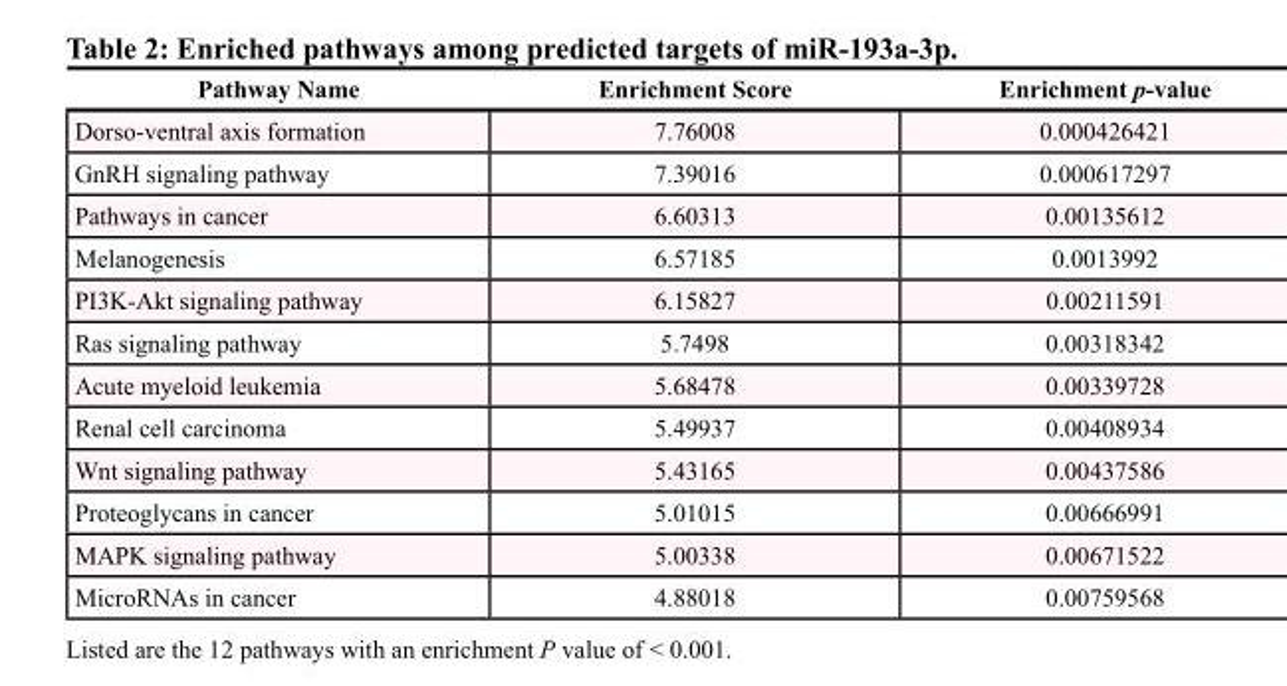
<table><thead><tr><td>Pathway Name</td><td>Enrichment Score</td><td>Enrichment p-value</td></tr></thead><tbody><tr><td>Dorso-ventral axis formation</td><td>7.76008</td><td>0.000426421</td></tr><tr><td>GnRH signaling pathway</td><td>7.39016</td><td>0.000617297</td></tr><tr><td>Pathways in cancer</td><td>6.60313</td><td>0.00135612</td></tr><tr><td>Melanogenesis</td><td>6.57185</td><td>0.0013992</td></tr><tr><td>PI3K-Akt signaling pathway</td><td>6.15827</td><td>0.00211591</td></tr><tr><td>Ras signaling pathway</td><td>5.7498</td><td>0.00318342</td></tr><tr><td>Acute myeloid leukemia</td><td>5.68478</td><td>0.00339728</td></tr><tr><td>Renal cell carcinoma</td><td>5.49937</td><td>0.00408934</td></tr><tr><td>Wnt signaling pathway</td><td>5.43165</td><td>0.00437586</td></tr><tr><td>Proteoglycans in cancer</td><td>5.01015</td><td>0.00666991</td></tr><tr><td>MAPK signaling pathway</td><td>5.00338</td><td>0.00671522</td></tr><tr><td>MicroRNAs in cancer</td><td>4.88018</td><td>0.00759568</td></tr></tbody></table>